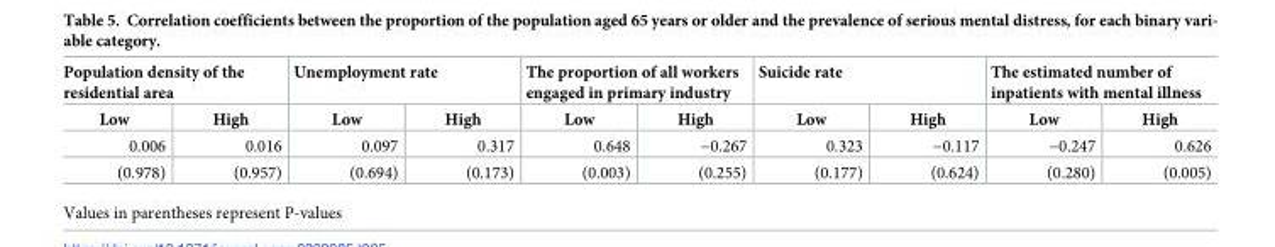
<table><thead><tr><td colspan="2">Population density of the residential area</td><td colspan="2">Unemployment rate</td><td colspan="2">The proportion of all workers engaged in primary industry</td><td colspan="2">Suicide rate</td><td colspan="2">The estimated number of inpatients with mental illness</td></tr><tr><td>Low</td><td>High</td><td>Low</td><td>High</td><td>Low</td><td>High</td><td>Low</td><td>High</td><td>Low</td><td>High</td></tr></thead><tbody><tr><td>0.006</td><td>0.016</td><td>0.097</td><td>0.317</td><td>0.648</td><td>−0.267</td><td>0.323</td><td>−0.117</td><td>−0.247</td><td>0.626</td></tr><tr><td>(0.978)</td><td>(0.957)</td><td>(0.694)</td><td>(0.173)</td><td>(0.003)</td><td>(0.255)</td><td>(0.177)</td><td>(0.624)</td><td>(0.280)</td><td>(0.005)</td></tr></tbody></table>